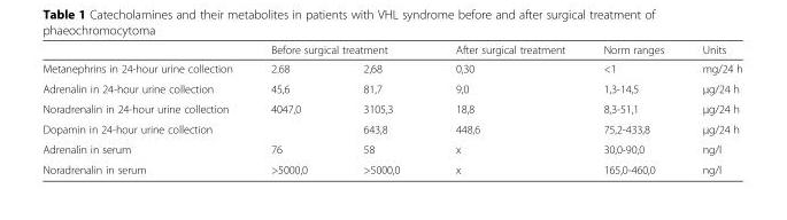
<table><thead><tr><td rowspan="2">Metanephrins in 24-hour urine collection</td><td colspan="2">Before surgical treatment</td><td rowspan="2">After surgical treatment 0,30</td><td rowspan="2">Norm ranges &lt;1</td><td rowspan="2">Units mg/24 h</td></tr><tr><td>2.68</td><td>2,68</td></tr></thead><tbody><tr><td>Adrenalin in 24-hour urine collection</td><td>45,6</td><td>81,7</td><td>9,0</td><td>1,3-14,5</td><td>μg/24 h</td></tr><tr><td>Noradrenalin in 24-hour urine collection</td><td>4047,0</td><td>3105,3</td><td>18,8</td><td>8,3-51,1</td><td>μg/24 h</td></tr><tr><td>Dopamin in 24-hour urine collection</td><td></td><td>643,8</td><td>448,6</td><td>75,2-433,8</td><td>μg/24 h</td></tr><tr><td>Adrenalin in serum</td><td>76</td><td>58</td><td>x</td><td>30,0-90,0</td><td>ng/l</td></tr><tr><td>Noradrenalin in serum</td><td>&gt;5000,0</td><td>&gt;5000,0</td><td>x</td><td>165,0-460,0</td><td>ng/l</td></tr></tbody></table>